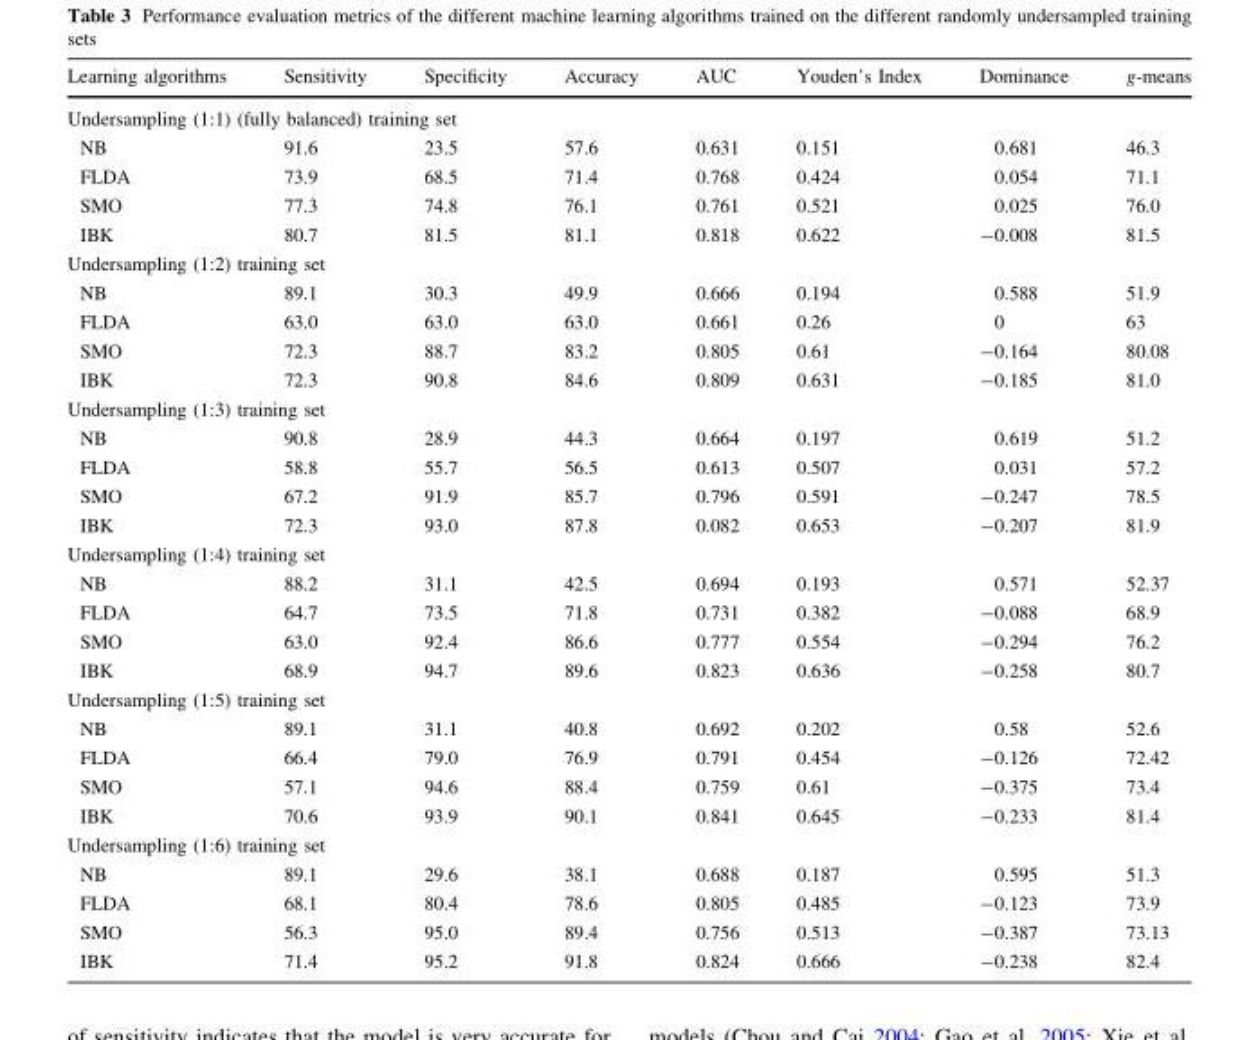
<table><thead><tr><td>Learning algorithms</td><td>Sensitivity</td><td>Specificity</td><td>Accuracy</td><td>AUC</td><td>Youden’s Index</td><td>Dominance</td><td>g-means</td></tr></thead><tbody><tr><td colspan="8">Undersampling (1:1) (fully balanced) training set</td></tr><tr><td>NB</td><td>91.6</td><td>23.5</td><td>57.6</td><td>0.631</td><td>0.151</td><td>0.681</td><td>46.3</td></tr><tr><td>FLDA</td><td>73.9</td><td>68.5</td><td>71.4</td><td>0.768</td><td>0.424</td><td>0.054</td><td>71.1</td></tr><tr><td>SMO</td><td>77.3</td><td>74.8</td><td>76.1</td><td>0.761</td><td>0.521</td><td>0.025</td><td>76.0</td></tr><tr><td>IBK</td><td>80.7</td><td>81.5</td><td>81.1</td><td>0.818</td><td>0.622</td><td>-0.008</td><td>81.5</td></tr><tr><td colspan="8">Undersampling (1:2) training set</td></tr><tr><td>NB</td><td>89.1</td><td>30.3</td><td>49.9</td><td>0.666</td><td>0.194</td><td>0.588</td><td>51.9</td></tr><tr><td>FLDA</td><td>63.0</td><td>63.0</td><td>63.0</td><td>0.661</td><td>0.26</td><td>0</td><td>63</td></tr><tr><td>SMO</td><td>72.3</td><td>88.7</td><td>83.2</td><td>0.805</td><td>0.61</td><td>-0.164</td><td>80.08</td></tr><tr><td>IBK</td><td>72.3</td><td>90.8</td><td>84.6</td><td>0.809</td><td>0.631</td><td>-0.185</td><td>81.0</td></tr><tr><td colspan="8">Undersampling (1:3) training set</td></tr><tr><td>NB</td><td>90.8</td><td>28.9</td><td>44.3</td><td>0.664</td><td>0.197</td><td>0.619</td><td>51.2</td></tr><tr><td>FLDA</td><td>58.8</td><td>55.7</td><td>56.5</td><td>0.613</td><td>0.507</td><td>0.031</td><td>57.2</td></tr><tr><td>SMO</td><td>67.2</td><td>91.9</td><td>85.7</td><td>0.796</td><td>0.591</td><td>-0.247</td><td>78.5</td></tr><tr><td>IBK</td><td>72.3</td><td>93.0</td><td>87.8</td><td>0.082</td><td>0.653</td><td>-0.207</td><td>81.9</td></tr><tr><td colspan="8">Undersampling (1:4) training set</td></tr><tr><td>NB</td><td>88.2</td><td>31.1</td><td>42.5</td><td>0.694</td><td>0.193</td><td>0.571</td><td>52.37</td></tr><tr><td>FLDA</td><td>64.7</td><td>73.5</td><td>71.8</td><td>0.731</td><td>0.382</td><td>-0.088</td><td>68.9</td></tr><tr><td>SMO</td><td>63.0</td><td>92.4</td><td>86.6</td><td>0.777</td><td>0.554</td><td>-0.294</td><td>76.2</td></tr><tr><td>IBK</td><td>68.9</td><td>94.7</td><td>89.6</td><td>0.823</td><td>0.636</td><td>-0.258</td><td>80.7</td></tr><tr><td colspan="8">Undersampling (1:5) training set</td></tr><tr><td>NB</td><td>89.1</td><td>31.1</td><td>40.8</td><td>0.692</td><td>0.202</td><td>0.58</td><td>52.6</td></tr><tr><td>FLDA</td><td>66.4</td><td>79.0</td><td>76.9</td><td>0.791</td><td>0.454</td><td>-0.126</td><td>72.42</td></tr><tr><td>SMO</td><td>57.1</td><td>94.6</td><td>88.4</td><td>0.759</td><td>0.61</td><td>-0.375</td><td>73.4</td></tr><tr><td>IBK</td><td>70.6</td><td>93.9</td><td>90.1</td><td>0.841</td><td>0.645</td><td>-0.233</td><td>81.4</td></tr><tr><td colspan="8">Undersampling (1:6) training set</td></tr><tr><td>NB</td><td>89.1</td><td>29.6</td><td>38.1</td><td>0.688</td><td>0.187</td><td>0.595</td><td>51.3</td></tr><tr><td>FLDA</td><td>68.1</td><td>80.4</td><td>78.6</td><td>0.805</td><td>0.485</td><td>-0.123</td><td>73.9</td></tr><tr><td>SMO</td><td>56.3</td><td>95.0</td><td>89.4</td><td>0.756</td><td>0.513</td><td>-0.387</td><td>73.13</td></tr><tr><td>IBK</td><td>71.4</td><td>95.2</td><td>91.8</td><td>0.824</td><td>0.666</td><td>-0.238</td><td>82.4</td></tr></tbody></table>